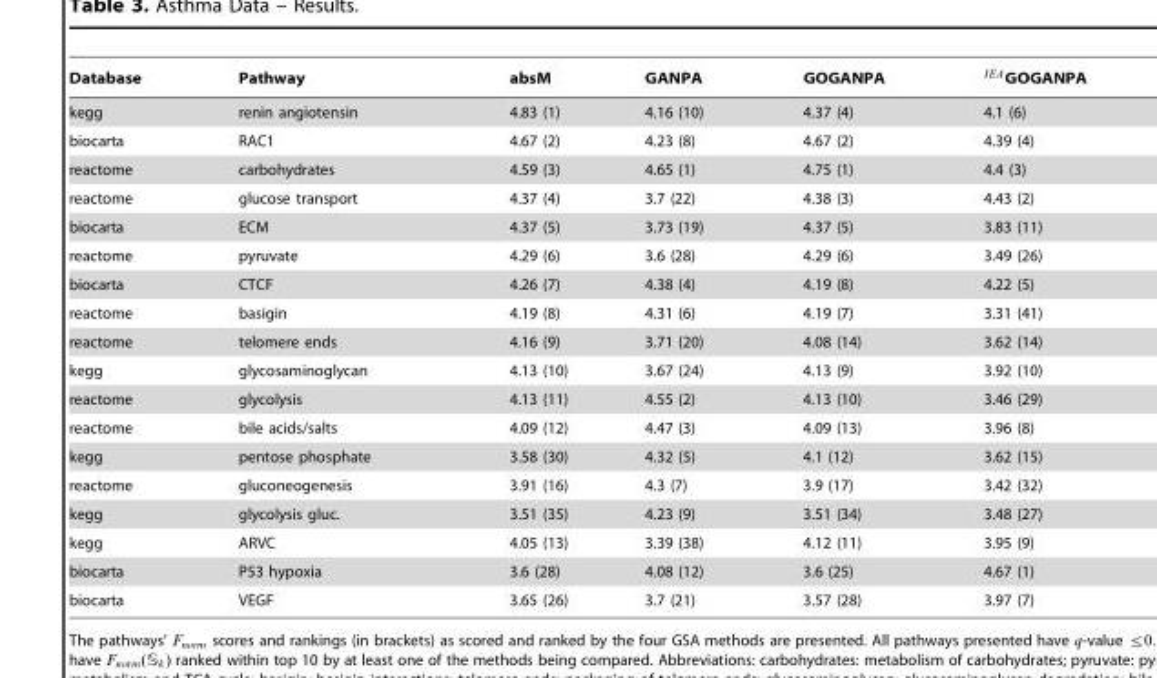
<table><thead><tr><td>Database</td><td>Pathway</td><td>absM</td><td>GANPA</td><td>GOGANPA</td><td>IEAGOGANPA</td></tr></thead><tbody><tr><td>kegg</td><td>renin angiotensin</td><td>4.83 (1)</td><td>4.16 (10)</td><td>4.37 (4)</td><td>4.1 (6)</td></tr><tr><td>biocarta</td><td>RAC1</td><td>4.67 (2)</td><td>4.23 (8)</td><td>4.67 (2)</td><td>4.39 (4)</td></tr><tr><td>reactome</td><td>carbohydrates</td><td>4.59 (3)</td><td>4.65 (1)</td><td>4.75 (1)</td><td>4.4 (3)</td></tr><tr><td>reactome</td><td>glucose transport</td><td>4.37 (4)</td><td>3.7 (22)</td><td>4.38 (3)</td><td>4.43 (2)</td></tr><tr><td>biocarta</td><td>ECM</td><td>4.37 (5)</td><td>3.73 (19)</td><td>4.37 (5)</td><td>3.83 (11)</td></tr><tr><td>reactome</td><td>pyruvate</td><td>4.29 (6)</td><td>3.6 (28)</td><td>4.29 (6)</td><td>3.49 (26)</td></tr><tr><td>biocarta</td><td>CTCF</td><td>4.26 (7)</td><td>4.38 (4)</td><td>4.19 (8)</td><td>4.22 (5)</td></tr><tr><td>reactome</td><td>basigin</td><td>4.19 (8)</td><td>4.31 (6)</td><td>4.19 (7)</td><td>3.31 (41)</td></tr><tr><td>reactome</td><td>telomere ends</td><td>4.16 (9)</td><td>3.71 (20)</td><td>4.08 (14)</td><td>3.62 (14)</td></tr><tr><td>kegg</td><td>glycosaminoglycan</td><td>4.13 (10)</td><td>3.67 (24)</td><td>4.13 (9)</td><td>3.92 (10)</td></tr><tr><td>reactome</td><td>glycolysis</td><td>4.13 (11)</td><td>4.55 (2)</td><td>4.13 (10)</td><td>3.46 (29)</td></tr><tr><td>reactome</td><td>bile acids/salts</td><td>4.09 (12)</td><td>4.47 (3)</td><td>4.09 (13)</td><td>3.96 (8)</td></tr><tr><td>kegg</td><td>pentose phosphate</td><td>3.58 (30)</td><td>4.32 (5)</td><td>4.1 (12)</td><td>3.62 (15)</td></tr><tr><td>reactome</td><td>gluconeogenesis</td><td>3.91 (16)</td><td>4.3 (7)</td><td>3.9 (17)</td><td>3.42 (32)</td></tr><tr><td>kegg</td><td>glycolysis gluc.</td><td>3.51 (35)</td><td>4.23 (9)</td><td>3.51 (34)</td><td>3.48 (27)</td></tr><tr><td>kegg</td><td>ARVC</td><td>4.05 (13)</td><td>3.39 (38)</td><td>4.12 (11)</td><td>3.95 (9)</td></tr><tr><td>biocarta</td><td>P53 hypoxia</td><td>3.6 (28)</td><td>4.08 (12)</td><td>3.6 (25)</td><td>4.67 (1)</td></tr><tr><td>biocarta</td><td>VEGF</td><td>3.65 (26)</td><td>3.7 (21)</td><td>3.57 (28)</td><td>3.97 (7)</td></tr></tbody></table>